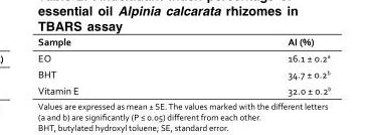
<table><thead><tr><td>Sample</td><td>AI (%)</td></tr></thead><tbody><tr><td>EO</td><td>16.1 ± 0.2<sup>a</sup></td></tr><tr><td>BHT</td><td>34.7 ± 0.2<sup>b</sup></td></tr><tr><td>Vitamin</td><td>E 32.0 ± 0.2<sup>b</sup></td></tr></tbody></table>